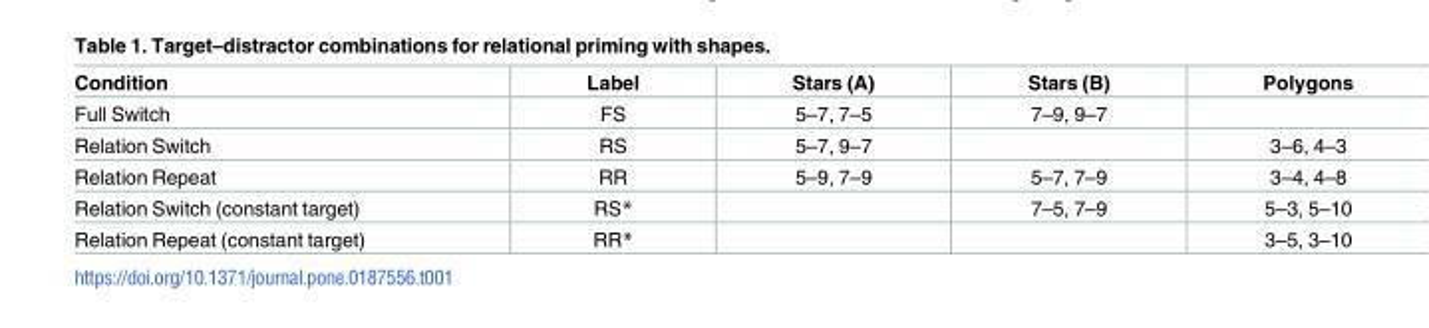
<table><thead><tr><td>Condition</td><td>Label</td><td>Stars (A)</td><td>Stars (B)</td><td>Polygons</td></tr></thead><tbody><tr><td>Full Switch</td><td>FS</td><td>5–7, 7–5</td><td>7–9, 9–7</td><td></td></tr><tr><td>Relation Switch</td><td>RS</td><td>5–7, 9–7</td><td></td><td>3–6, 4–3</td></tr><tr><td>Relation Repeat</td><td>RR</td><td>5–9, 7–9</td><td>5–7, 7–9</td><td>3–4, 4–8</td></tr><tr><td>Relation Switch (constant target)</td><td>RS*</td><td></td><td>7–5, 7–9</td><td>5–3, 5–10</td></tr><tr><td>Relation Repeat (constant target)</td><td>RR*</td><td></td><td></td><td>3–5, 3–10</td></tr></tbody></table>